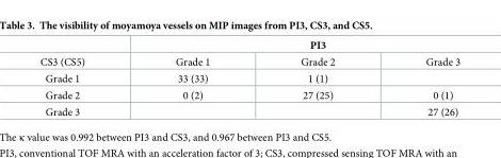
<table><thead><tr><td rowspan="2">CS3 (CS5)</td><td colspan="3">PI3</td></tr><tr><td>Grade 1</td><td>Grade 2</td><td>Grade 3</td></tr></thead><tbody><tr><td>Grade 1</td><td>33 (33)</td><td>1 (1)</td><td></td></tr><tr><td>Grade 2</td><td>0 (2)</td><td>27 (25)</td><td>0 (1)</td></tr><tr><td>Grade 3</td><td></td><td></td><td>27 (26)</td></tr></tbody></table>